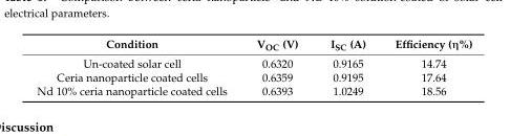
<table><thead><tr><td>Condition</td><td>V<sub>OC</sub> (V)</td><td>I<sub>SC</sub> (A)</td><td>Efficiency (η%)</td></tr></thead><tbody><tr><td>Un-coated solar cell</td><td>0.6320</td><td>0.9165</td><td>14.74</td></tr><tr><td>Ceria nanoparticle coated cells</td><td>0.6359</td><td>0.9195</td><td>17.64</td></tr><tr><td>Nd 10% ceria nanoparticle coated cells</td><td>0.6393</td><td>1.0249</td><td>18.56</td></tr></tbody></table>